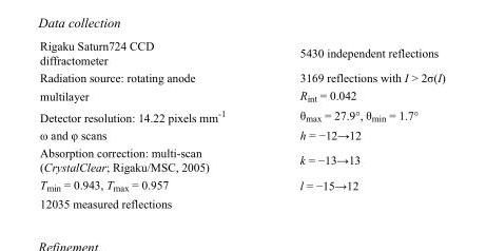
<table><tbody><tr><td>Rigaku Saturn724 CCD diffractometer</td><td>5430 independent reflections</td></tr><tr><td>Radiation source: rotating anode</td><td>3169 reflections with I &gt; 2σ(I)</td></tr><tr><td>multilayer</td><td>R<sub>int</sub> = 0.042</td></tr><tr><td>Detector resolution: 14.22 pixels mm<sup>-1</sup></td><td>θ<sub>max</sub> = 27.9°, θ<sub>min</sub> = 1.7°</td></tr><tr><td>ω and φ scans</td><td>h = −12→12</td></tr><tr><td>Absorption correction: multi-scan (CrystalClear; Rigaku/MSC, 2005)</td><td>k = −13→13</td></tr><tr><td>T<sub>min</sub> = 0.943, T<sub>max</sub> = 0.957</td><td>l = −15→12</td></tr><tr><td>12035 measured reflections</td><td></td></tr></tbody></table>